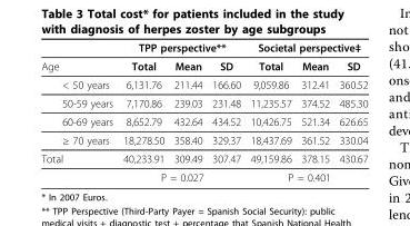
<table><thead><tr><td rowspan="2">Age</td><td colspan="3">TPP perspective**</td><td colspan="3">Societal perspective‡</td></tr><tr><td>Total</td><td>Mean</td><td>SD</td><td>Total</td><td>Mean</td><td>SD</td></tr></thead><tbody><tr><td>&lt; 50 years</td><td>6,131.76</td><td>211.44</td><td>166.60</td><td>9,059.86</td><td>312.41</td><td>360.52</td></tr><tr><td>50-59 years</td><td>7,170.86</td><td>239.03</td><td>231.48</td><td>11,235.57</td><td>374.52</td><td>485.30</td></tr><tr><td>60-69 years</td><td>8,652.79</td><td>432.64</td><td>434.52</td><td>10,426.75</td><td>521.34</td><td>626.65</td></tr><tr><td>≥ 70 years</td><td>18,278.50</td><td>358.40</td><td>329.37</td><td>18,437.69</td><td>361.52</td><td>330.04</td></tr><tr><td rowspan="2">Total</td><td>40,233.91</td><td>309.49</td><td>307.47</td><td>49,159.86</td><td>378.15</td><td>430.67</td></tr><tr><td colspan="3">P = 0.027</td><td colspan="3">P = 0.401</td></tr></tbody></table>